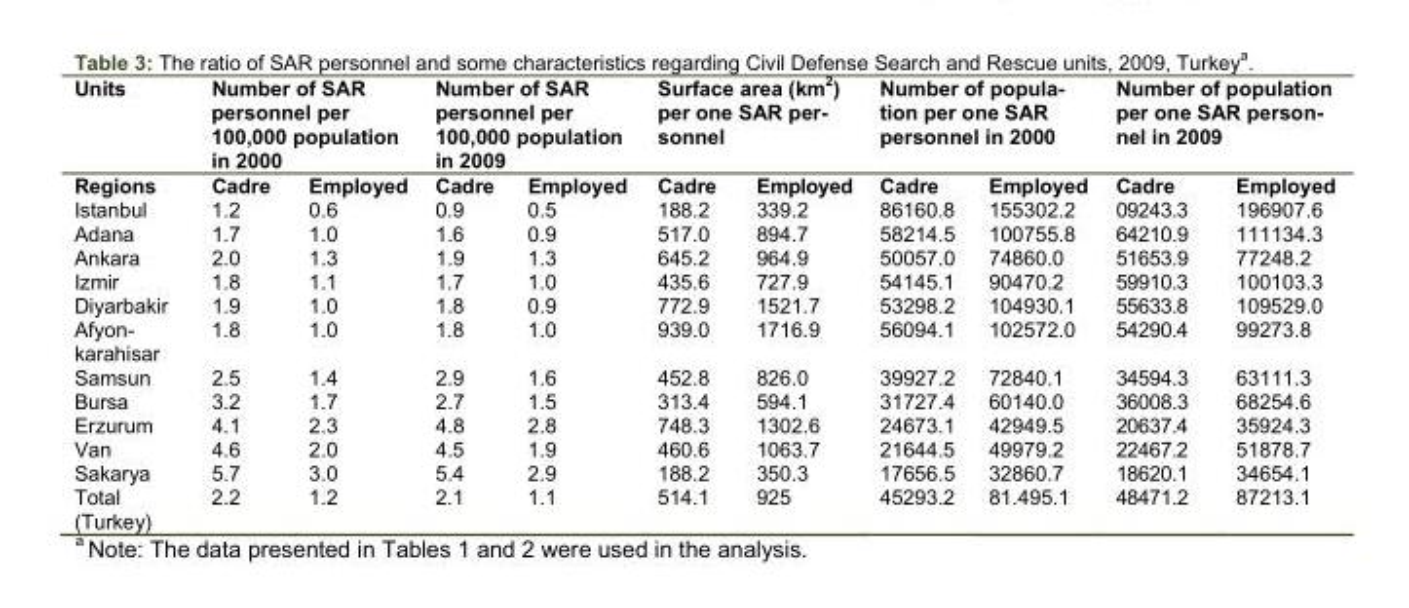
<table><thead><tr><td rowspan="2">Units Regions</td><td colspan="2">Number of SAR personnel per 100,000 population in 2000</td><td colspan="2">Number of SAR personnel per 100,000 population in 2009</td><td colspan="2">Surface area (km2) per one SAR per- sonnel</td><td colspan="2">Number of popula- tion per one SAR personnel in 2000</td><td colspan="2">Number of population per one SAR person- nel in 2009</td></tr><tr><td>Cadre</td><td>Employed</td><td>Cadre</td><td>Employed</td><td>Cadre</td><td>Employed</td><td>Cadre</td><td>Employed</td><td>Cadre</td><td>Employed</td></tr></thead><tbody><tr><td>Istanbul</td><td>1.2</td><td>0.6</td><td>0.9</td><td>0.5</td><td>188.2</td><td>339.2</td><td>86160.8</td><td>155302.2</td><td>09243.3</td><td>196907.6</td></tr><tr><td>Adana</td><td>1.7</td><td>1.0</td><td>1.6</td><td>0.9</td><td>517.0</td><td>894.7</td><td>58214.5</td><td>100755.8</td><td>64210.9</td><td>111134.3</td></tr><tr><td>Ankara</td><td>2.0</td><td>1.3</td><td>1.9</td><td>1.3</td><td>645.2</td><td>964.9</td><td>50057.0</td><td>74860.0</td><td>51653.9</td><td>77248.2</td></tr><tr><td>Izmir</td><td>1.8</td><td>1.1</td><td>1.7</td><td>1.0</td><td>435.6</td><td>727.9</td><td>54145.1</td><td>90470.2</td><td>59910.3</td><td>100103.3</td></tr><tr><td>Diyarbakir</td><td>1.9</td><td>1.0</td><td>1.8</td><td>0.9</td><td>772.9</td><td>1521.7</td><td>53298.2</td><td>104930.1</td><td>55633.8</td><td>109529.0</td></tr><tr><td>Afyon- karahisar</td><td>1.8</td><td>1.0</td><td>1.8</td><td>1.0</td><td>939.0</td><td>1716.9</td><td>56094.1</td><td>102572.0</td><td>54290.4</td><td>99273.8</td></tr><tr><td>Samsun</td><td>2.5</td><td>1.4</td><td>2.9</td><td>1.6</td><td>452.8</td><td>826.0</td><td>39927.2</td><td>72840.1</td><td>34594.3</td><td>63111.3</td></tr><tr><td>Bursa</td><td>3.2</td><td>1.7</td><td>2.7</td><td>1.5</td><td>313.4</td><td>594.1</td><td>31727.4</td><td>60140.0</td><td>36008.3</td><td>68254.6</td></tr><tr><td>Erzurum</td><td>4.1</td><td>2.3</td><td>4.8</td><td>2.8</td><td>748.3</td><td>1302.6</td><td>24673.1</td><td>42949.5</td><td>20637.4</td><td>35924.3</td></tr><tr><td>Van</td><td>4.6</td><td>2.0</td><td>4.5</td><td>1.9</td><td>460.6</td><td>1063.7</td><td>21644.5</td><td>49979.2</td><td>22467.2</td><td>51878.7</td></tr><tr><td>Sakarya</td><td>5.7</td><td>3.0</td><td>5.4</td><td>2.9</td><td>188.2</td><td>350.3</td><td>17656.5</td><td>32860.7</td><td>18620.1</td><td>34654.1</td></tr><tr><td>Total (Turkey)</td><td>2.2</td><td>1.2</td><td>2.1</td><td>1.1</td><td>514.1</td><td>925</td><td>45293.2</td><td>81.495.1</td><td>48471.2</td><td>87213.1</td></tr></tbody></table>